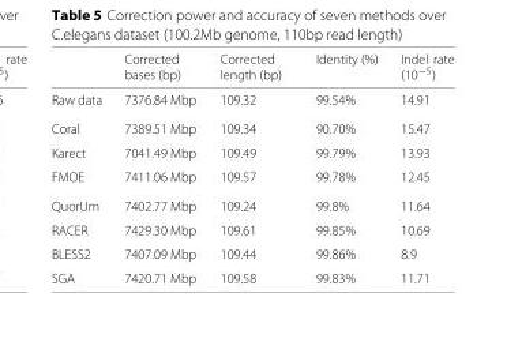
<table><thead><tr><td></td><td>Corrected bases (bp)</td><td>Corrected length (bp)</td><td>Identity (%)</td><td>Indel rate (10<sup>−5</sup>)</td></tr></thead><tbody><tr><td>Raw data</td><td>7376.84 Mbp</td><td>109.32</td><td>99.54%</td><td>14.91</td></tr><tr><td>Coral</td><td>7389.51 Mbp</td><td>109.34</td><td>90.70%</td><td>15.47</td></tr><tr><td>Karect</td><td>7041.49 Mbp</td><td>109.49</td><td>99.79%</td><td>13.93</td></tr><tr><td>FMOE</td><td>7411.06 Mbp</td><td>109.57</td><td>99.78%</td><td>12.45</td></tr><tr><td>QuorUm</td><td>7402.77 Mbp</td><td>109.24</td><td>99.8%</td><td>11.64</td></tr><tr><td>RACER</td><td>7429.30 Mbp</td><td>109.61</td><td>99.85%</td><td>10.69</td></tr><tr><td>BLESS2</td><td>7407.09 Mbp</td><td>109.44</td><td>99.86%</td><td>8.9</td></tr><tr><td>SGA</td><td>7420.71 Mbp</td><td>109.58</td><td>99.83%</td><td>11.71</td></tr></tbody></table>